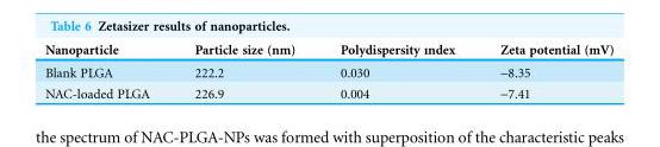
<table><thead><tr><td>Nanoparticle</td><td>Particle size (nm)</td><td>Polydispersity ındex</td><td>Zeta potential (mV)</td></tr></thead><tbody><tr><td>Blank PLGA</td><td>222.2</td><td>0.030</td><td>-8.35</td></tr><tr><td>NAC-loaded PLGA</td><td>226.9</td><td>0.004</td><td>-7.41</td></tr></tbody></table>